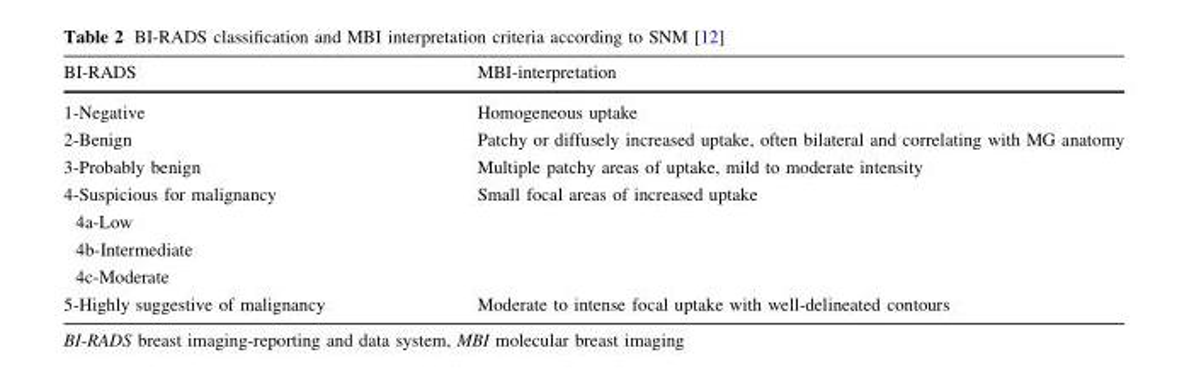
<table><thead><tr><td>BI-RADS</td><td>MBI-interpretation</td></tr></thead><tbody><tr><td>1-Negative</td><td>Homogeneous uptake</td></tr><tr><td>2-Benign</td><td>Patchy or diffusely increased uptake, often bilateral and correlating with MG anatomy</td></tr><tr><td>3-Probably benign</td><td>Multiple patchy areas of uptake, mild to moderate intensity</td></tr><tr><td>4-Suspicious for malignancy</td><td rowspan="4">Small focal areas of increased uptake</td></tr><tr><td>4a-Low</td></tr><tr><td>4b-Intermediate</td></tr><tr><td>4c-Moderate</td></tr><tr><td>5-Highly suggestive of malignancy</td><td>Moderate to intense focal uptake with well-delineated contours</td></tr></tbody></table>